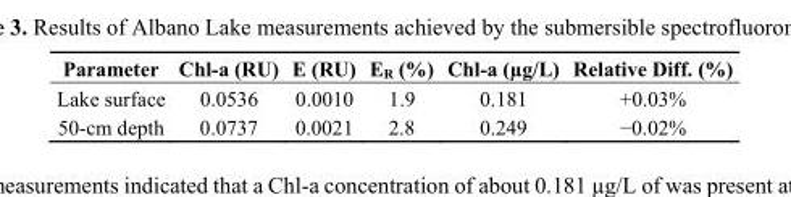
<table><thead><tr><td>Parameter</td><td>Chl-a (RU)</td><td>E (RU)</td><td>E<sub>R</sub> (%)</td><td>Chl-a (µg/L)</td><td>Relative Diff. (%)</td></tr></thead><tbody><tr><td>Lake surface</td><td>0.0536</td><td>0.0010</td><td>1.9</td><td>0.181</td><td>+0.03%</td></tr><tr><td>50-cm depth</td><td>0.0737</td><td>0.0021</td><td>2.8</td><td>0.249</td><td>−0.02%</td></tr></tbody></table>